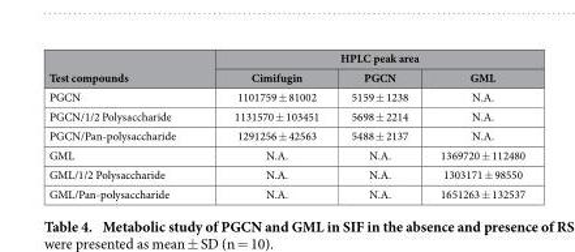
<table><thead><tr><td rowspan="2">Test compounds</td><td colspan="3">HPLC peak area</td></tr><tr><td>Cimifugin</td><td>PGCN</td><td>GML</td></tr></thead><tbody><tr><td>PGCN</td><td>1101759 ± 81002</td><td>5159 ± 1238</td><td>N.A.</td></tr><tr><td>PGCN/1/2 Polysaccharide</td><td>1131570 ± 103451</td><td>5698 ± 2214</td><td>N.A.</td></tr><tr><td>PGCN/Pan-polysaccharide</td><td>1291256 ± 42563</td><td>5488 ± 2137</td><td>N.A.</td></tr><tr><td>GML</td><td>N.A.</td><td>N.A.</td><td>1369720 ± 112480</td></tr><tr><td>GML/1/2 Polysaccharide</td><td>N.A.</td><td>N.A.</td><td>1303171 ± 98550</td></tr><tr><td>GML/Pan-polysaccharide</td><td>N.A.</td><td>N.A.</td><td>1651263 ± 132537</td></tr></tbody></table>